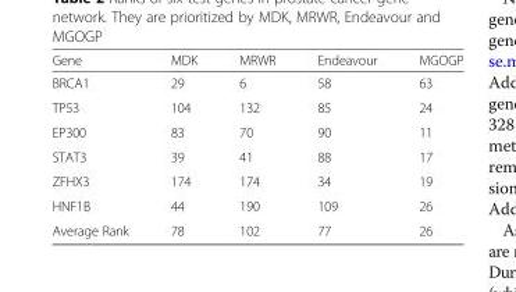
<table><thead><tr><td>Gene</td><td>MDK</td><td>MRWR</td><td>Endeavour</td><td>MGOGP</td></tr></thead><tbody><tr><td>BRCA1</td><td>29</td><td>6</td><td>58</td><td>63</td></tr><tr><td>TP53</td><td>104</td><td>132</td><td>85</td><td>24</td></tr><tr><td>EP300</td><td>83</td><td>70</td><td>90</td><td>11</td></tr><tr><td>STAT3</td><td>39</td><td>41</td><td>88</td><td>17</td></tr><tr><td>ZFHX3</td><td>174</td><td>174</td><td>34</td><td>19</td></tr><tr><td>HNF1B</td><td>44</td><td>190</td><td>109</td><td>26</td></tr><tr><td>Average Rank</td><td>78</td><td>102</td><td>77</td><td>26</td></tr></tbody></table>